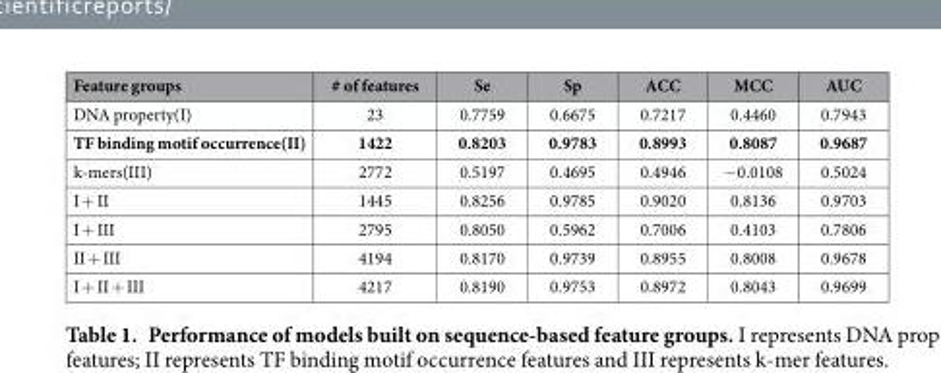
<table><thead><tr><td>Feature groups</td><td># of features</td><td>Se</td><td>Sp</td><td>ACC</td><td>MCC</td><td>AUC</td></tr></thead><tbody><tr><td>DNA property(I)</td><td>23</td><td>0.7759</td><td>0.6675</td><td>0.7217</td><td>0.4460</td><td>0.7943</td></tr><tr><td>TF binding motif occurrence(II)</td><td>1422</td><td>0.8203</td><td>0.9783</td><td>0.8993</td><td>0.8087</td><td>0.9687</td></tr><tr><td>k-mers(III)</td><td>2772</td><td>0.5197</td><td>0.4695</td><td>0.4946</td><td>− 0.0108</td><td>0.5024</td></tr><tr><td>I + II</td><td>1445</td><td>0.8256</td><td>0.9785</td><td>0.9020</td><td>0.8136</td><td>0.9703</td></tr><tr><td>I + III</td><td>2795</td><td>0.8050</td><td>0.5962</td><td>0.7006</td><td>0.4103</td><td>0.7806</td></tr><tr><td>II + III</td><td>4194</td><td>0.8170</td><td>0.9739</td><td>0.8955</td><td>0.8008</td><td>0.9678</td></tr><tr><td>I + II + III</td><td>4217</td><td>0.8190</td><td>0.9753</td><td>0.8972</td><td>0.8043</td><td>0.9699</td></tr></tbody></table>